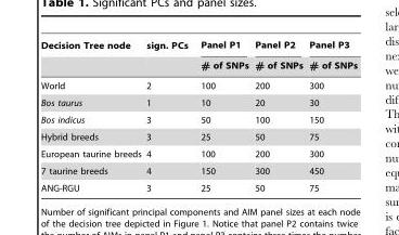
<table><thead><tr><td rowspan="2">Decision Tree node</td><td rowspan="2">sign. PCs</td><td rowspan="2">Panel P1 # of SNPs</td><td rowspan="2">Panel P2 # of SNPs</td><td rowspan="2">Panel P3 # of SNPs</td></tr><tr></tr></thead><tbody><tr><td>World</td><td>2</td><td>100</td><td>200</td><td>300</td></tr><tr><td>Bos taurus</td><td>1</td><td>10</td><td>20</td><td>30</td></tr><tr><td>Bos indicus</td><td>3</td><td>50</td><td>100</td><td>150</td></tr><tr><td>Hybrid breeds</td><td>3</td><td>25</td><td>50</td><td>75</td></tr><tr><td>European taurine breeds</td><td>4</td><td>100</td><td>200</td><td>300</td></tr><tr><td>7 taurine breeds</td><td>4</td><td>150</td><td>300</td><td>450</td></tr><tr><td>ANG-RGU</td><td>3</td><td>25</td><td>50</td><td>75</td></tr></tbody></table>